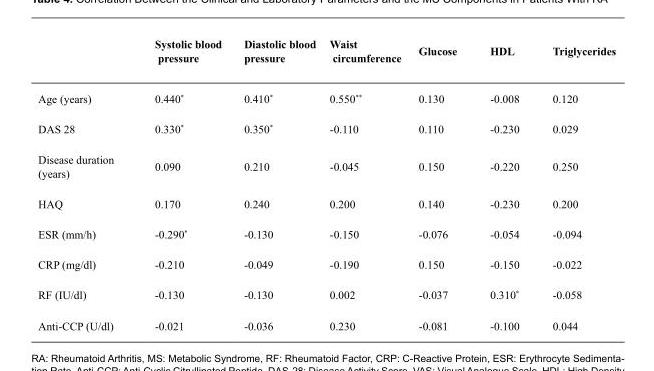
<table><thead><tr><td></td><td>Systolic blood pressure</td><td>Diastolic blood pressure</td><td>Waist circumference</td><td>Glucose</td><td>HDL</td><td>Triglycerides</td></tr></thead><tbody><tr><td>Age (years)</td><td>0.440*</td><td>0.410*</td><td>0.550**</td><td>0.130</td><td>-0.008</td><td>0.120</td></tr><tr><td>DAS 28</td><td>0.330*</td><td>0.350*</td><td>-0.110</td><td>0.110</td><td>-0.230</td><td>0.029</td></tr><tr><td>Disease duration (years)</td><td>0.090</td><td>0.210</td><td>-0.045</td><td>0.150</td><td>-0.220</td><td>0.250</td></tr><tr><td>HAQ</td><td>0.170</td><td>0.240</td><td>0.200</td><td>0.140</td><td>-0.230</td><td>0.200</td></tr><tr><td>ESR (mm/h)</td><td>-0.290*</td><td>-0.130</td><td>-0.150</td><td>-0.076</td><td>-0.054</td><td>-0.094</td></tr><tr><td>CRP (mg/dl)</td><td>-0.210</td><td>-0.049</td><td>-0.190</td><td>0.150</td><td>-0.150</td><td>-0.022</td></tr><tr><td>RF (IU/dl)</td><td>-0.130</td><td>-0.130</td><td>0.002</td><td>-0.037</td><td>0.310*</td><td>-0.058</td></tr><tr><td>Anti-CCP (U/dl)</td><td>-0.021</td><td>-0.036</td><td>0.230</td><td>-0.081</td><td>-0.100</td><td>0.044</td></tr></tbody></table>